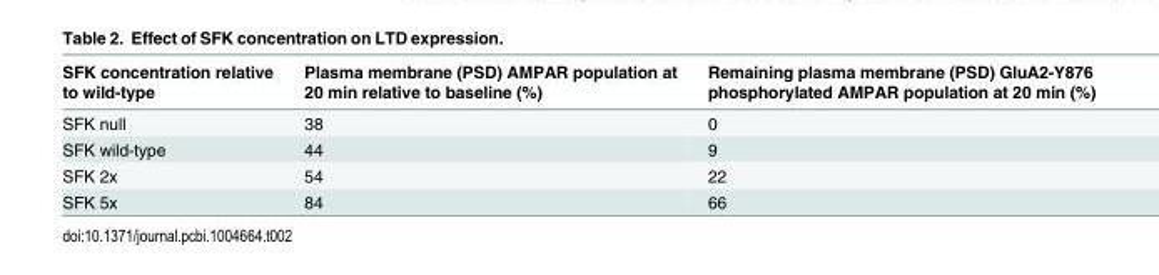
<table><thead><tr><td>SFK concentration relative to wild-type</td><td>Plasma membrane (PSD) AMPAR population at 20 min relative to baseline (%)</td><td>Remaining plasma membrane (PSD) GluA2-Y876 phosphorylated AMPAR population at 20 min (%)</td></tr></thead><tbody><tr><td>SFK null</td><td>38</td><td>0</td></tr><tr><td>SFK wild-type</td><td>44</td><td>9</td></tr><tr><td>SFK 2x</td><td>54</td><td>22</td></tr><tr><td>SFK 5x</td><td>84</td><td>66</td></tr></tbody></table>